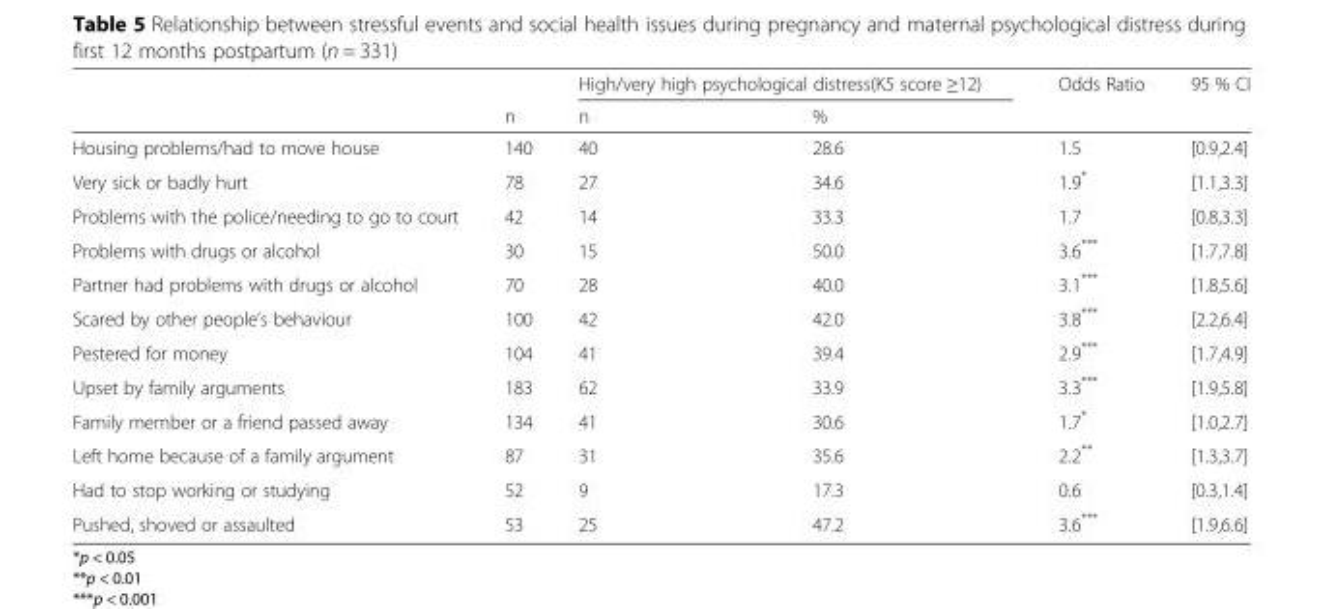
<table><thead><tr><td rowspan="2"></td><td rowspan="2">n</td><td colspan="2">High/very high psychological distress(K5 score ≥12)</td><td rowspan="2">Odds Ratio</td><td rowspan="2">95 % CI</td></tr><tr><td>n</td><td>%</td></tr></thead><tbody><tr><td>Housing problems/had to move house</td><td>140</td><td>40</td><td>28.6</td><td>1.5</td><td>[0.9,2.4]</td></tr><tr><td>Very sick or badly hurt</td><td>78</td><td>27</td><td>34.6</td><td>1.9*</td><td>[1.1,3.3]</td></tr><tr><td>Problems with the police/needing to go to court</td><td>42</td><td>14</td><td>33.3</td><td>1.7</td><td>[0.8,3.3]</td></tr><tr><td>Problems with drugs or alcohol</td><td>30</td><td>15</td><td>50.0</td><td>3.6***</td><td>[1.7,7.8]</td></tr><tr><td>Partner had problems with drugs or alcohol</td><td>70</td><td>28</td><td>40.0</td><td>3.1***</td><td>[1.8,5.6]</td></tr><tr><td>Scared by other people’s behaviour</td><td>100</td><td>42</td><td>42.0</td><td>3.8***</td><td>[2.2,6.4]</td></tr><tr><td>Pestered for money</td><td>104</td><td>41</td><td>39.4</td><td>2.9***</td><td>[1.7,4.9]</td></tr><tr><td>Upset by family arguments</td><td>183</td><td>62</td><td>33.9</td><td>3.3***</td><td>[1.9,5.8]</td></tr><tr><td>Family member or a friend passed away</td><td>134</td><td>41</td><td>30.6</td><td>1.7*</td><td>[1.0,2.7]</td></tr><tr><td>Left home because of a family argument</td><td>87</td><td>31</td><td>35.6</td><td>2.2**</td><td>[1.3,3.7]</td></tr><tr><td>Had to stop working or studying</td><td>52</td><td>9</td><td>17.3</td><td>0.6</td><td>[0.3,1.4]</td></tr><tr><td>Pushed, shoved or assaulted</td><td>53</td><td>25</td><td>47.2</td><td>3.6***</td><td>[1.9,6.6]</td></tr></tbody></table>